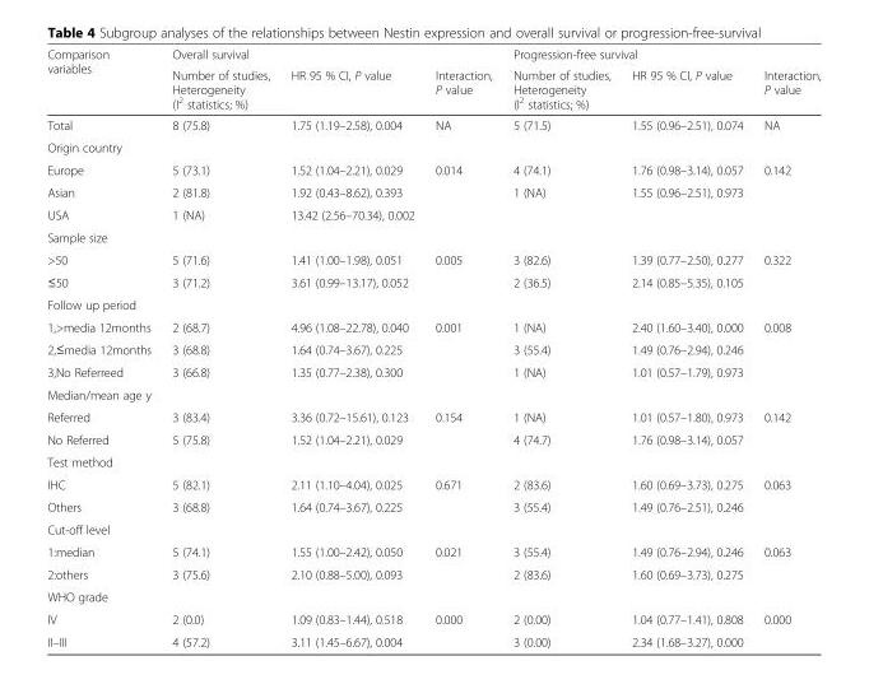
<table><thead><tr><td rowspan="2">Comparison variables</td><td colspan="3">Overall survival</td><td colspan="3">Progression-free survival</td></tr><tr><td>Number of studies, Heterogeneity (I<sup>2</sup> statistics; %)</td><td>HR 95 % CI, P value</td><td>Interaction, P value</td><td>Number of studies, Heterogeneity (I<sup>2</sup> statistics; %)</td><td>HR 95 % CI, P value</td><td>Interaction, P value</td></tr></thead><tbody><tr><td>Total</td><td>8 (75.8)</td><td>1.75 (1.19–2.58), 0.004</td><td>NA</td><td>5 (71.5)</td><td>1.55 (0.96–2.51), 0.074</td><td>NA</td></tr><tr><td colspan="7">Origin country</td></tr><tr><td>Europe</td><td>5 (73.1)</td><td>1.52 (1.04–2.21), 0.029</td><td>0.014</td><td>4 (74.1)</td><td>1.76 (0.98–3.14), 0.057</td><td>0.142</td></tr><tr><td>Asian</td><td>2 (81.8)</td><td>1.92 (0.43–8.62), 0.393</td><td></td><td>1 (NA)</td><td>1.55 (0.96–2.51), 0.973</td><td></td></tr><tr><td>USA</td><td>1 (NA)</td><td>13.42 (2.56–70.34), 0.002</td><td></td><td></td><td></td><td></td></tr><tr><td colspan="7">Sample size</td></tr><tr><td>&gt;50</td><td>5 (71.6)</td><td>1.41 (1.00–1.98), 0.051</td><td>0.005</td><td>3 (82.6)</td><td>1.39 (0.77–2.50), 0.277</td><td>0.322</td></tr><tr><td>≤50</td><td>3 (71.2)</td><td>3.61 (0.99–13.17), 0.052</td><td></td><td>2 (36.5)</td><td>2.14 (0.85–5.35), 0.105</td><td></td></tr><tr><td colspan="7">Follow up period</td></tr><tr><td>1,&gt;media 12months</td><td>2 (68.7)</td><td>4.96 (1.08–22.78), 0.040</td><td>0.001</td><td>1 (NA)</td><td>2.40 (1.60–3.40), 0.000</td><td>0.008</td></tr><tr><td>2,≤media 12months</td><td>3 (68.8)</td><td>1.64 (0.74–3.67), 0.225</td><td></td><td>3 (55.4)</td><td>1.49 (0.76–2.94), 0.246</td><td></td></tr><tr><td>3,No Referreed</td><td>3 (66.8)</td><td>1.35 (0.77–2.38), 0.300</td><td></td><td>1 (NA)</td><td>1.01 (0.57–1.79), 0.973</td><td></td></tr><tr><td colspan="7">Median/mean age y</td></tr><tr><td>Referred</td><td>3 (83.4)</td><td>3.36 (0.72–15.61), 0.123</td><td>0.154</td><td>1 (NA)</td><td>1.01 (0.57–1.80), 0.973</td><td>0.142</td></tr><tr><td>No Referred</td><td>5 (75.8)</td><td>1.52 (1.04–2.21), 0.029</td><td></td><td>4 (74.7)</td><td>1.76 (0.98–3.14), 0.057</td><td></td></tr><tr><td colspan="7">Test method</td></tr><tr><td>IHC</td><td>5 (82.1)</td><td>2.11 (1.10–4.04), 0.025</td><td>0.671</td><td>2 (83.6)</td><td>1.60 (0.69–3.73), 0.275</td><td>0.063</td></tr><tr><td>Others</td><td>3 (68.8)</td><td>1.64 (0.74–3.67), 0.225</td><td></td><td>3 (55.4)</td><td>1.49 (0.76–2.51), 0.246</td><td></td></tr><tr><td colspan="7">Cut‑off level</td></tr><tr><td>1:median</td><td>5 (74.1)</td><td>1.55 (1.00–2.42), 0.050</td><td>0.021</td><td>3 (55.4)</td><td>1.49 (0.76–2.94), 0.246</td><td>0.063</td></tr><tr><td>2:others</td><td>3 (75.6)</td><td>2.10 (0.88–5.00), 0.093</td><td></td><td>2 (83.6)</td><td>1.60 (0.69–3.73), 0.275</td><td></td></tr><tr><td colspan="7">WHO grade</td></tr><tr><td>IV</td><td>2 (0.0)</td><td>1.09 (0.83–1.44), 0.518</td><td>0.000</td><td>2 (0.00)</td><td>1.04 (0.77–1.41), 0.808</td><td>0.000</td></tr><tr><td>II–III</td><td>4 (57.2)</td><td>3.11 (1.45–6.67), 0.004</td><td></td><td>3 (0.00)</td><td>2.34 (1.68–3.27), 0.000</td><td></td></tr></tbody></table>